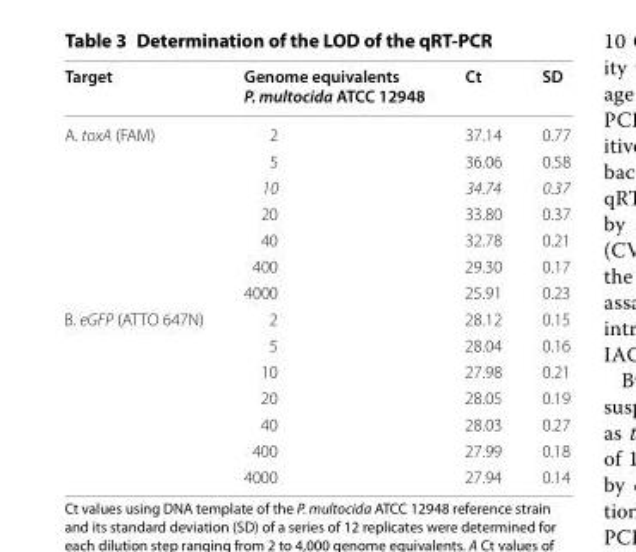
<table><thead><tr><td>Target</td><td>Genome equivalents P. multocida ATCC 12948</td><td>Ct</td><td>SD</td></tr></thead><tbody><tr><td rowspan="7">A. toxA (FAM)</td><td>2</td><td>37.14</td><td>0.77</td></tr><tr><td>5</td><td>36.06</td><td>0.58</td></tr><tr><td>10</td><td>34.74</td><td>0.37</td></tr><tr><td>20</td><td>33.80</td><td>0.37</td></tr><tr><td>40</td><td>32.78</td><td>0.21</td></tr><tr><td>400</td><td>29.30</td><td>0.17</td></tr><tr><td>4000</td><td>25.91</td><td>0.23</td></tr><tr><td rowspan="7">B. eGFP (ATTO 647N)</td><td>2</td><td>28.12</td><td>0.15</td></tr><tr><td>5</td><td>28.04</td><td>0.16</td></tr><tr><td>10</td><td>27.98</td><td>0.21</td></tr><tr><td>20</td><td>28.05</td><td>0.19</td></tr><tr><td>40</td><td>28.03</td><td>0.27</td></tr><tr><td>400</td><td>27.99</td><td>0.18</td></tr><tr><td>4000</td><td>27.94</td><td>0.14</td></tr></tbody></table>